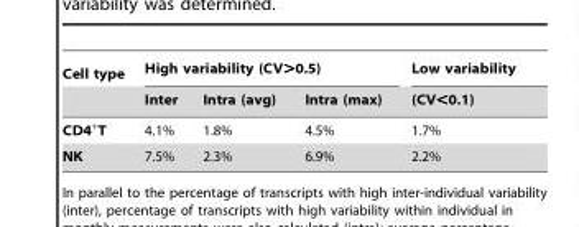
<table><thead><tr><td rowspan="2">Cell type</td><td colspan="3">High variability (CV&gt;0.5)</td><td rowspan="2">Low variability (CV&lt;0.1)</td></tr><tr><td>Inter</td><td>Intra (avg)</td><td>Intra (max)</td></tr></thead><tbody><tr><td>CD4<sup>+</sup>T</td><td>4.1%</td><td>1.8%</td><td>4.5%</td><td>1.7%</td></tr><tr><td>NK</td><td>7.5%</td><td>2.3%</td><td>6.9%</td><td>2.2%</td></tr></tbody></table>